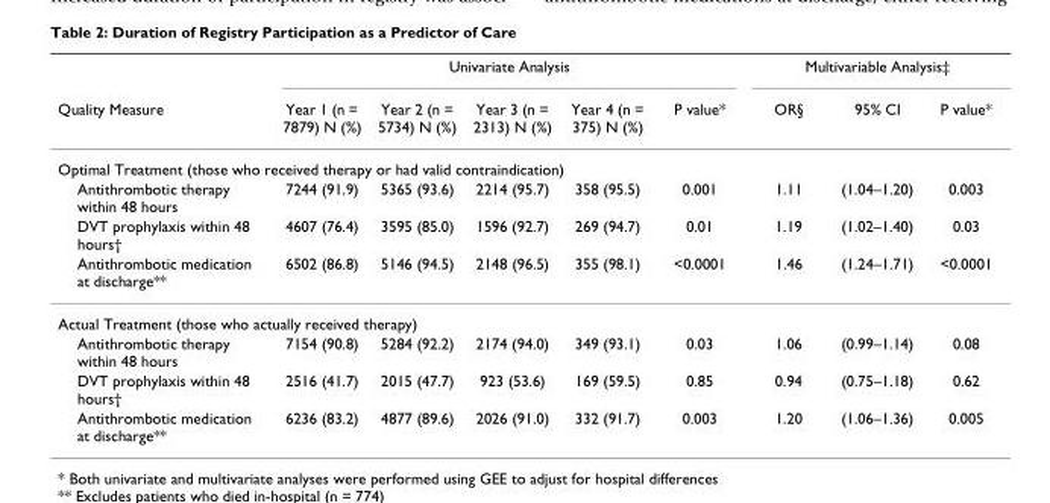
<table><thead><tr><td rowspan="2">Quality Measure</td><td colspan="5">Univariate Analysis</td><td colspan="3">Multivariable Analysis‡</td></tr><tr><td>Year 1 (n = 7879) N (%)</td><td>Year 2 (n = 5734) N (%)</td><td>Year 3 (n = 2313) N (%)</td><td>Year 4 (n = 375) N (%)</td><td>P value*</td><td>OR§</td><td>95% CI</td><td>P value*</td></tr></thead><tbody><tr><td colspan="9">Optimal Treatment (those who received therapy or had valid contraindication)</td></tr><tr><td>Antithrombotic therapy within 48 hours</td><td>7244 (91.9)</td><td>5365 (93.6)</td><td>2214 (95.7)</td><td>358 (95.5)</td><td>0.001</td><td>1.11</td><td>(1.04–1.20)</td><td>0.003</td></tr><tr><td>DVT prophylaxis within 48 hours†</td><td>4607 (76.4)</td><td>3595 (85.0)</td><td>1596 (92.7)</td><td>269 (94.7)</td><td>0.01</td><td>1.19</td><td>(1.02–1.40)</td><td>0.03</td></tr><tr><td>Antithrombotic medication at discharge**</td><td>6502 (86.8)</td><td>5146 (94.5)</td><td>2148 (96.5)</td><td>355 (98.1)</td><td>&lt;0.0001</td><td>1.46</td><td>(1.24–1.71)</td><td>&lt;0.0001</td></tr><tr><td colspan="9">Actual Treatment (those who actually received therapy)</td></tr><tr><td>Antithrombotic therapy within 48 hours</td><td>7154 (90.8)</td><td>5284 (92.2)</td><td>2174 (94.0)</td><td>349 (93.1)</td><td>0.03</td><td>1.06</td><td>(0.99–1.14)</td><td>0.08</td></tr><tr><td>DVT prophylaxis within 48 hours†</td><td>2516 (41.7)</td><td>2015 (47.7)</td><td>923 (53.6)</td><td>169 (59.5)</td><td>0.85</td><td>0.94</td><td>(0.75–1.18)</td><td>0.62</td></tr><tr><td>Antithrombotic medication at discharge**</td><td>6236 (83.2)</td><td>4877 (89.6)</td><td>2026 (91.0)</td><td>332 (91.7)</td><td>0.003</td><td>1.20</td><td>(1.06–1.36)</td><td>0.005</td></tr></tbody></table>